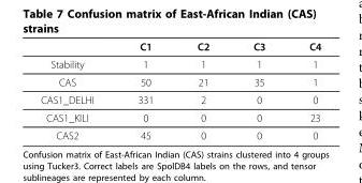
<table><thead><tr><td></td><td>C1</td><td>C2</td><td>C3</td><td>C4</td></tr></thead><tbody><tr><td>Stability</td><td>1</td><td>1</td><td>1</td><td>1</td></tr><tr><td>CAS</td><td>50</td><td>21</td><td>35</td><td>1</td></tr><tr><td>CAS1_DELHI</td><td>331</td><td>2</td><td>0</td><td>0</td></tr><tr><td>CAS1_KILI</td><td>0</td><td>0</td><td>0</td><td>23</td></tr><tr><td>CAS2</td><td>45</td><td>0</td><td>0</td><td>0</td></tr></tbody></table>